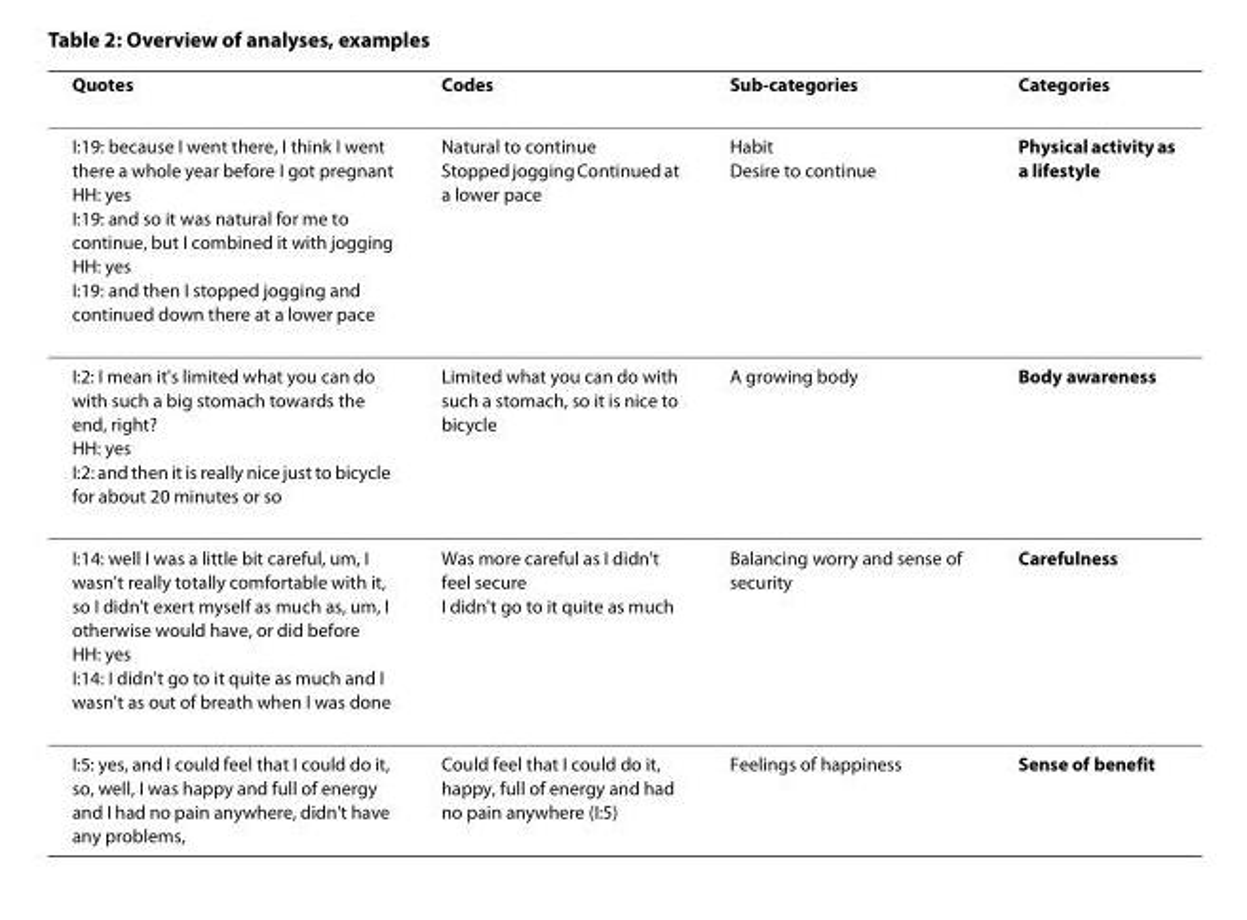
<table><thead><tr><td>Quotes</td><td>Codes</td><td>Sub-categories</td><td>Categories</td></tr></thead><tbody><tr><td>I:19: because I went there, I think I went there a whole year before I got pregnant HH: yes I:19: and so it was natural for me to continue, but I combined it with jogging HH: yes I:19: and then I stopped jogging and continued down there at a lower pace</td><td>Natural to continue Stopped jogging Continued at a lower pace</td><td>Habit Desire to continue</td><td>Physical activity as a lifestyle</td></tr><tr><td>I:2: I mean it&#x27;s limited what you can do with such a big stomach towards the end, right? HH: yes I:2: and then it is really nice just to bicycle for about 20 minutes or so</td><td>Limited what you can do with such a stomach, so it is nice to bicycle</td><td>A growing body</td><td>Body awareness</td></tr><tr><td>I:14: well I was a little bit careful, um, I wasn&#x27;t really totally comfortable with it, so I didn&#x27;t exert myself as much as, um, I otherwise would have, or did before HH: yes I:14: I didn&#x27;t go to it quite as much and I wasn&#x27;t as out of breath when I was done</td><td>Was more careful as I didn&#x27;t feel secure I didn&#x27;t go to it quite as much</td><td>Balancing worry and sense of security</td><td>Carefulness</td></tr><tr><td>I:5: yes, and I could feel that I could do it, so, well, I was happy and full of energy and I had no pain anywhere, didn&#x27;t have any problems,</td><td>Could feel that I could do it, happy, full of energy and had no pain anywhere (I:5)</td><td>Feelings of happiness</td><td>Sense of benefit</td></tr></tbody></table>